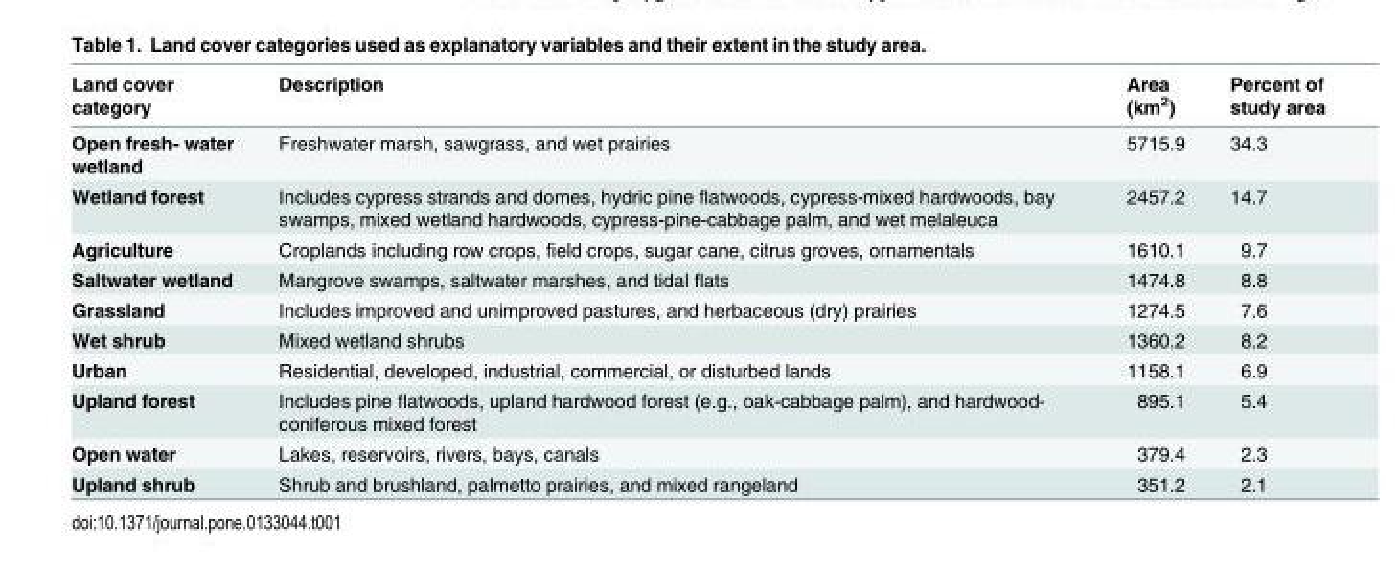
<table><thead><tr><td>Land cover category</td><td>Description</td><td>Area (km<sup>2</sup>)</td><td>Percent of study area</td></tr></thead><tbody><tr><td>Open fresh- water wetland</td><td>Freshwater marsh, sawgrass, and wet prairies</td><td>5715.9</td><td>34.3</td></tr><tr><td>Wetland forest</td><td>Includes cypress strands and domes, hydric pine flatwoods, cypress-mixed hardwoods, bay swamps, mixed wetland hardwoods, cypress-pine-cabbage palm, and wet melaleuca</td><td>2457.2</td><td>14.7</td></tr><tr><td>Agriculture</td><td>Croplands including row crops, field crops, sugar cane, citrus groves, ornamentals</td><td>1610.1</td><td>9.7</td></tr><tr><td>Saltwater wetland</td><td>Mangrove swamps, saltwater marshes, and tidal flats</td><td>1474.8</td><td>8.8</td></tr><tr><td>Grassland</td><td>Includes improved and unimproved pastures, and herbaceous (dry) prairies</td><td>1274.5</td><td>7.6</td></tr><tr><td>Wet shrub</td><td>Mixed wetland shrubs</td><td>1360.2</td><td>8.2</td></tr><tr><td>Urban</td><td>Residential, developed, industrial, commercial, or disturbed lands</td><td>1158.1</td><td>6.9</td></tr><tr><td>Upland forest</td><td>Includes pine flatwoods, upland hardwood forest (e.g., oak-cabbage palm), and hardwood- coniferous mixed forest</td><td>895.1</td><td>5.4</td></tr><tr><td>Open water</td><td>Lakes, reservoirs, rivers, bays, canals</td><td>379.4</td><td>2.3</td></tr><tr><td>Upland shrub</td><td>Shrub and brushland, palmetto prairies, and mixed rangeland</td><td>351.2</td><td>2.1</td></tr></tbody></table>